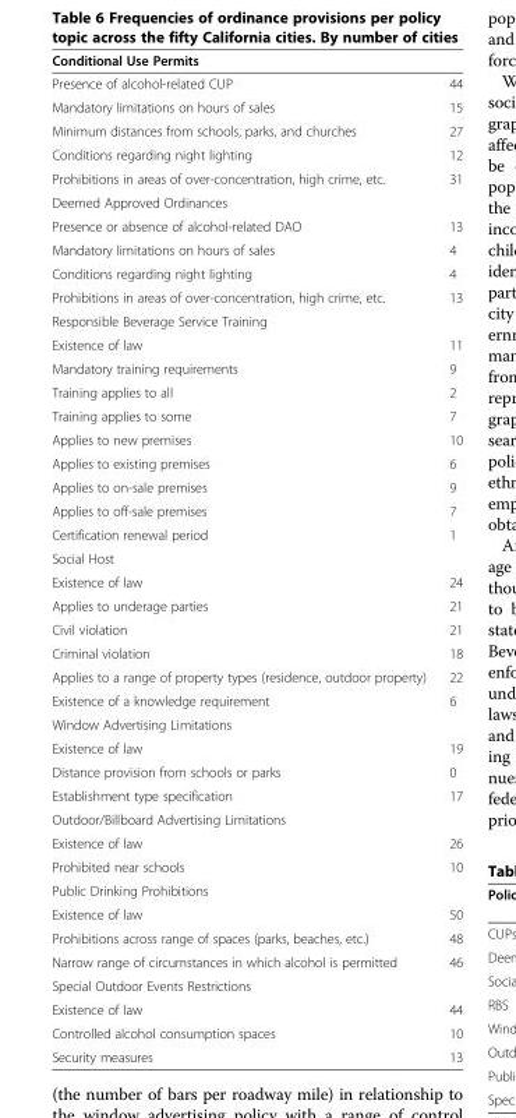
<table><thead><tr><td colspan="2">Conditional Use Permits</td></tr><tr><td>Presence of alcohol-related CUP</td><td>44</td></tr></thead><tbody><tr><td>Mandatory limitations on hours of sales</td><td>15</td></tr><tr><td>Minimum distances from schools, parks, and churches</td><td>27</td></tr><tr><td>Conditions regarding night lighting</td><td>12</td></tr><tr><td>Prohibitions in areas of over-concentration, high crime, etc.</td><td>31</td></tr><tr><td colspan="2">Deemed Approved Ordinances</td></tr><tr><td>Presence or absence of alcohol-related DAO</td><td>13</td></tr><tr><td>Mandatory limitations on hours of sales</td><td>4</td></tr><tr><td>Conditions regarding night lighting</td><td>4</td></tr><tr><td>Prohibitions in areas of over-concentration, high crime, etc.</td><td>13</td></tr><tr><td colspan="2">Responsible Beverage Service Training</td></tr><tr><td>Existence of law</td><td>11</td></tr><tr><td>Mandatory training requirements</td><td>9</td></tr><tr><td>Training applies to all</td><td>2</td></tr><tr><td>Training applies to some</td><td>7</td></tr><tr><td>Applies to new premises</td><td>10</td></tr><tr><td>Applies to existing premises</td><td>6</td></tr><tr><td>Applies to on-sale premises</td><td>9</td></tr><tr><td>Applies to off-sale premises</td><td>7</td></tr><tr><td>Certification renewal period</td><td>1</td></tr><tr><td colspan="2">Social Host</td></tr><tr><td>Existence of law</td><td>24</td></tr><tr><td>Applies to underage parties</td><td>21</td></tr><tr><td>Civil violation</td><td>21</td></tr><tr><td>Criminal violation</td><td>18</td></tr><tr><td>Applies to a range of property types (residence, outdoor property)</td><td>22</td></tr><tr><td>Existence of a knowledge requirement</td><td>6</td></tr><tr><td colspan="2">Window Advertising Limitations</td></tr><tr><td>Existence of law</td><td>19</td></tr><tr><td>Distance provision from schools or parks</td><td>0</td></tr><tr><td>Establishment type specification</td><td>17</td></tr><tr><td colspan="2">Outdoor/Billboard Advertising Limitations</td></tr><tr><td>Existence of law</td><td>26</td></tr><tr><td>Prohibited near schools</td><td>10</td></tr><tr><td colspan="2">Public Drinking Prohibitions</td></tr><tr><td>Existence of law</td><td>50</td></tr><tr><td>Prohibitions across range of spaces (parks, beaches, etc.)</td><td>48</td></tr><tr><td>Narrow range of circumstances in which alcohol is permitted</td><td>46</td></tr><tr><td colspan="2">Special Outdoor Events Restrictions</td></tr><tr><td>Existence of law</td><td>44</td></tr><tr><td>Controlled alcohol consumption spaces</td><td>10</td></tr><tr><td>Security measures</td><td>13</td></tr></tbody></table>